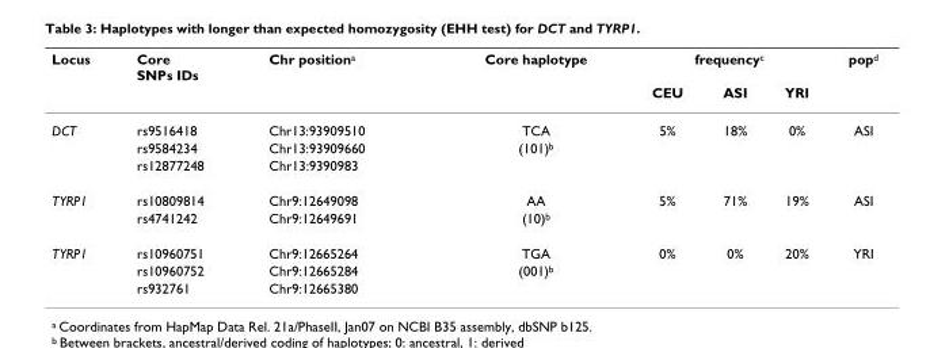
<table><thead><tr><td rowspan="2">Locus</td><td rowspan="2">Core SNPs IDs</td><td rowspan="2">Chr position<sup>a</sup></td><td rowspan="2">Core haplotype</td><td colspan="3">frequency<sup>c</sup></td><td rowspan="2">pop<sup>d</sup></td></tr><tr><td>CEU</td><td>ASI</td><td>YRI</td></tr></thead><tbody><tr><td rowspan="3">DCT</td><td>rs9516418</td><td>Chr13:93909510</td><td>TCA</td><td>5%</td><td>18%</td><td>0%</td><td>ASI</td></tr><tr><td>rs9584234</td><td>Chr13:93909660</td><td>(101)<sup>b</sup></td><td></td><td></td><td></td><td></td></tr><tr><td>rs12877248</td><td>Chr13:9390983</td><td></td><td></td><td></td><td></td><td></td></tr><tr><td rowspan="2">TYRP1</td><td>rs10809814</td><td>Chr9:12649098</td><td>AA</td><td>5%</td><td>71%</td><td>19%</td><td>ASI</td></tr><tr><td>rs4741242</td><td>Chr9:12649691</td><td>(10)<sup>b</sup></td><td></td><td></td><td></td><td></td></tr><tr><td rowspan="3">TYRP1</td><td>rs10960751</td><td>Chr9:12665264</td><td>TGA</td><td>0%</td><td>0%</td><td>20%</td><td>YRI</td></tr><tr><td>rs10960752</td><td>Chr9:12665284</td><td>(001)<sup>b</sup></td><td></td><td></td><td></td><td></td></tr><tr><td>rs932761</td><td>Chr9:12665380</td><td></td><td></td><td></td><td></td><td></td></tr></tbody></table>